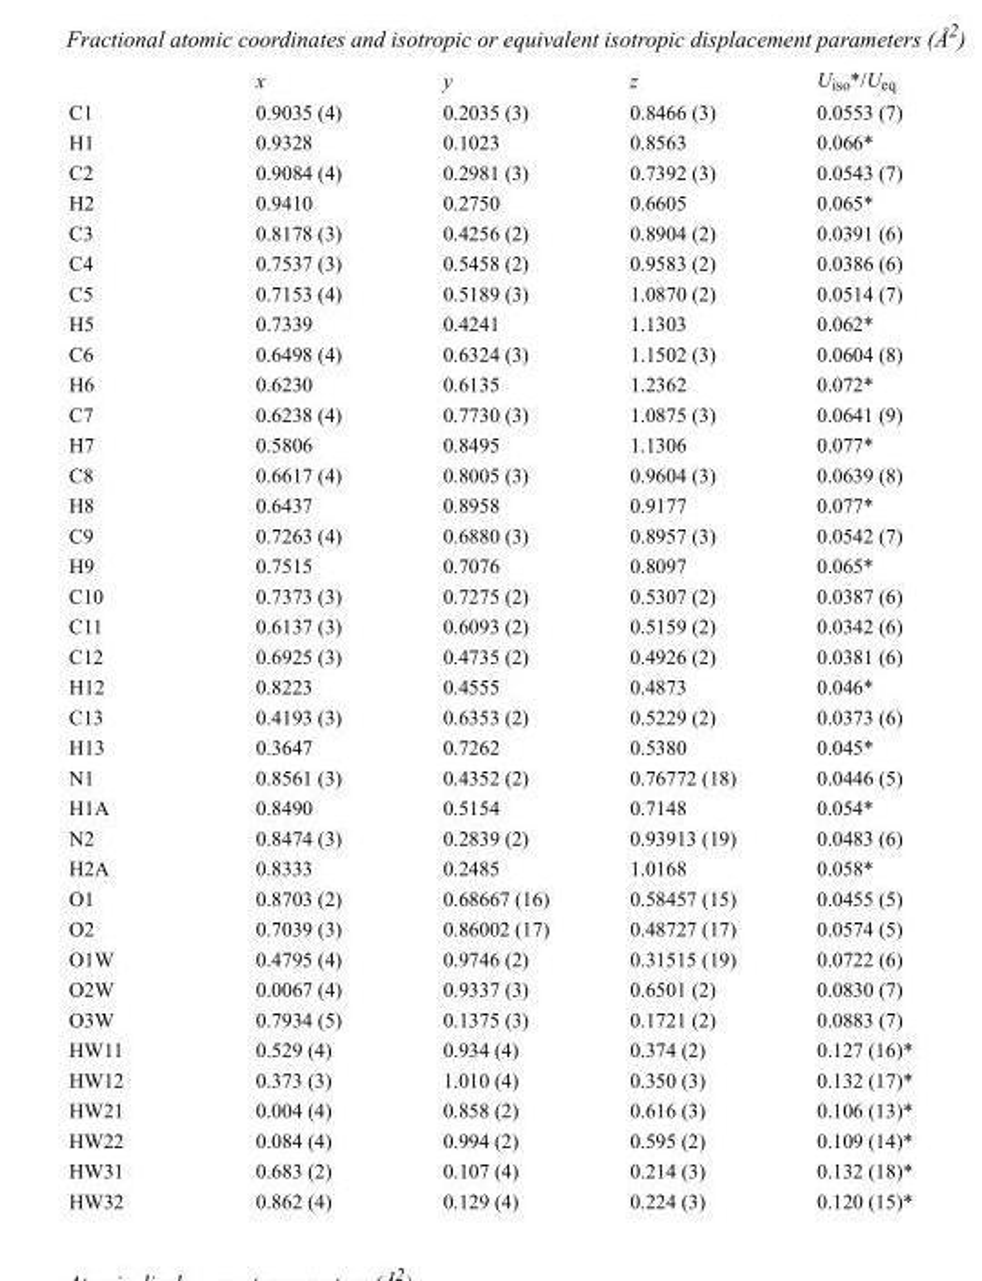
<table><thead><tr><td></td><td>x</td><td>y</td><td>z</td><td>U<sub>iso</sub>*/U<sub>eq</sub></td></tr></thead><tbody><tr><td>C1</td><td>0.9035 (4)</td><td>0.2035 (3)</td><td>0.8466 (3)</td><td>0.0553 (7)</td></tr><tr><td>H1</td><td>0.9328</td><td>0.1023</td><td>0.8563</td><td>0.066*</td></tr><tr><td>C2</td><td>0.9084 (4)</td><td>0.2981 (3)</td><td>0.7392 (3)</td><td>0.0543 (7)</td></tr><tr><td>H2</td><td>0.9410</td><td>0.2750</td><td>0.6605</td><td>0.065*</td></tr><tr><td>C3</td><td>0.8178 (3)</td><td>0.4256 (2)</td><td>0.8904 (2)</td><td>0.0391 (6)</td></tr><tr><td>C4</td><td>0.7537 (3)</td><td>0.5458 (2)</td><td>0.9583 (2)</td><td>0.0386 (6)</td></tr><tr><td>C5</td><td>0.7153 (4)</td><td>0.5189 (3)</td><td>1.0870 (2)</td><td>0.0514 (7)</td></tr><tr><td>H5</td><td>0.7339</td><td>0.4241</td><td>1.1303</td><td>0.062*</td></tr><tr><td>C6</td><td>0.6498 (4)</td><td>0.6324 (3)</td><td>1.1502 (3)</td><td>0.0604 (8)</td></tr><tr><td>H6</td><td>0.6230</td><td>0.6135</td><td>1.2362</td><td>0.072*</td></tr><tr><td>C7</td><td>0.6238 (4)</td><td>0.7730 (3)</td><td>1.0875 (3)</td><td>0.0641 (9)</td></tr><tr><td>H7</td><td>0.5806</td><td>0.8495</td><td>1.1306</td><td>0.077*</td></tr><tr><td>C8</td><td>0.6617 (4)</td><td>0.8005 (3)</td><td>0.9604 (3)</td><td>0.0639 (8)</td></tr><tr><td>H8</td><td>0.6437</td><td>0.8958</td><td>0.9177</td><td>0.077*</td></tr><tr><td>C9</td><td>0.7263 (4)</td><td>0.6880 (3)</td><td>0.8957 (3)</td><td>0.0542 (7)</td></tr><tr><td>H9</td><td>0.7515</td><td>0.7076</td><td>0.8097</td><td>0.065*</td></tr><tr><td>C10</td><td>0.7373 (3)</td><td>0.7275 (2)</td><td>0.5307 (2)</td><td>0.0387 (6)</td></tr><tr><td>C11</td><td>0.6137 (3)</td><td>0.6093 (2)</td><td>0.5159 (2)</td><td>0.0342 (6)</td></tr><tr><td>C12</td><td>0.6925 (3)</td><td>0.4735 (2)</td><td>0.4926 (2)</td><td>0.0381 (6)</td></tr><tr><td>H12</td><td>0.8223</td><td>0.4555</td><td>0.4873</td><td>0.046*</td></tr><tr><td>C13</td><td>0.4193 (3)</td><td>0.6353 (2)</td><td>0.5229 (2)</td><td>0.0373 (6)</td></tr><tr><td>H13</td><td>0.3647</td><td>0.7262</td><td>0.5380</td><td>0.045*</td></tr><tr><td>N1</td><td>0.8561 (3)</td><td>0.4352 (2)</td><td>0.76772 (18)</td><td>0.0446 (5)</td></tr><tr><td>H1A</td><td>0.8490</td><td>0.5154</td><td>0.7148</td><td>0.054*</td></tr><tr><td>N2</td><td>0.8474 (3)</td><td>0.2839 (2)</td><td>0.93913 (19)</td><td>0.0483 (6)</td></tr><tr><td>H2A</td><td>0.8333</td><td>0.2485</td><td>1.0168</td><td>0.058*</td></tr><tr><td>O1</td><td>0.8703 (2)</td><td>0.68667 (16)</td><td>0.58457 (15)</td><td>0.0455 (5)</td></tr><tr><td>O2</td><td>0.7039 (3)</td><td>0.86002 (17)</td><td>0.48727 (17)</td><td>0.0574 (5)</td></tr><tr><td>O1W</td><td>0.4795 (4)</td><td>0.9746 (2)</td><td>0.31515 (19)</td><td>0.0722 (6)</td></tr><tr><td>O2W</td><td>0.0067 (4)</td><td>0.9337 (3)</td><td>0.6501 (2)</td><td>0.0830 (7)</td></tr><tr><td>O3W</td><td>0.7934 (5)</td><td>0.1375 (3)</td><td>0.1721 (2)</td><td>0.0883 (7)</td></tr><tr><td>HW11</td><td>0.529 (4)</td><td>0.934 (4)</td><td>0.374 (2)</td><td>0.127 (16)*</td></tr><tr><td>HW12</td><td>0.373 (3)</td><td>1.010 (4)</td><td>0.350 (3)</td><td>0.132 (17)*</td></tr><tr><td>HW21</td><td>0.004 (4)</td><td>0.858 (2)</td><td>0.616 (3)</td><td>0.106 (13)*</td></tr><tr><td>HW22</td><td>0.084 (4)</td><td>0.994 (2)</td><td>0.595 (2)</td><td>0.109 (14)*</td></tr><tr><td>HW31</td><td>0.683 (2)</td><td>0.107 (4)</td><td>0.214 (3)</td><td>0.132 (18)*</td></tr><tr><td>HW32</td><td>0.862 (4)</td><td>0.129 (4)</td><td>0.224 (3)</td><td>0.120 (15)*</td></tr></tbody></table>